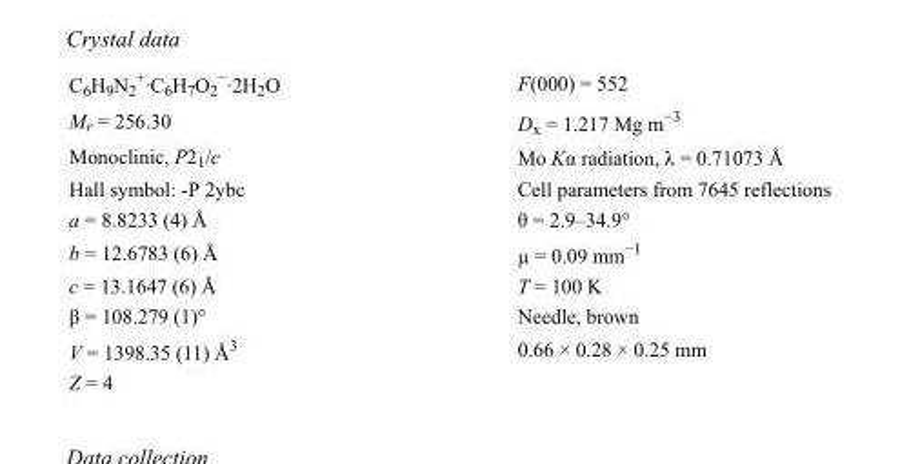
<table><tbody><tr><td>C<sub>6</sub>H<sub>9</sub>N<sub>2</sub> <sup>+</sup>·C<sub>6</sub>H<sub>7</sub>O<sub>2</sub> <sup>−</sup>·2H<sub>2</sub>O</td><td>F(000) = 552</td></tr><tr><td>M<sub>r</sub> = 256.30</td><td>D<sub>x</sub> = 1.217 Mg m<sup>−3</sup></td></tr><tr><td>Monoclinic, P2<sub>1</sub>/c</td><td>Mo Kα radiation, λ = 0.71073 Å</td></tr><tr><td>Hall symbol: -P 2ybc</td><td>Cell parameters from 7645 reflections</td></tr><tr><td>a = 8.8233 (4) Å</td><td>θ = 2.9–34.9°</td></tr><tr><td>b = 12.6783 (6) Å</td><td>µ = 0.09 mm<sup>−1</sup></td></tr><tr><td>c = 13.1647 (6) Å</td><td>T = 100 K</td></tr><tr><td>β = 108.279 (1)°</td><td>Needle, brown</td></tr><tr><td>V = 1398.35 (11) Å<sup>3</sup></td><td>0.66 × 0.28 × 0.25 mm</td></tr><tr><td>Z = 4</td><td></td></tr></tbody></table>